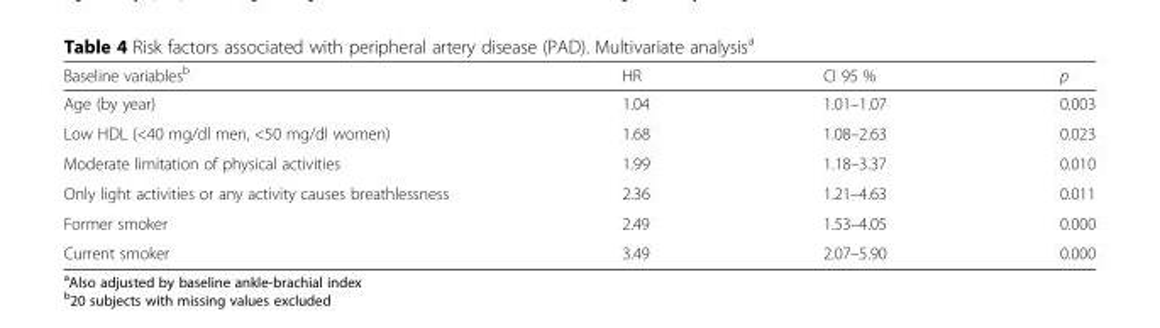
<table><thead><tr><td>Baseline variables<sup>b</sup></td><td>HR</td><td>CI 95 %</td><td>p</td></tr></thead><tbody><tr><td>Age (by year)</td><td>1.04</td><td>1.01–1.07</td><td>0.003</td></tr><tr><td>Low HDL (&lt;40 mg/dl men, &lt;50 mg/dl women)</td><td>1.68</td><td>1.08–2.63</td><td>0.023</td></tr><tr><td>Moderate limitation of physical activities</td><td>1.99</td><td>1.18–3.37</td><td>0.010</td></tr><tr><td>Only light activities or any activity causes breathlessness</td><td>2.36</td><td>1.21–4.63</td><td>0.011</td></tr><tr><td>Former smoker</td><td>2.49</td><td>1.53–4.05</td><td>0.000</td></tr><tr><td>Current smoker</td><td>3.49</td><td>2.07–5.90</td><td>0.000</td></tr></tbody></table>